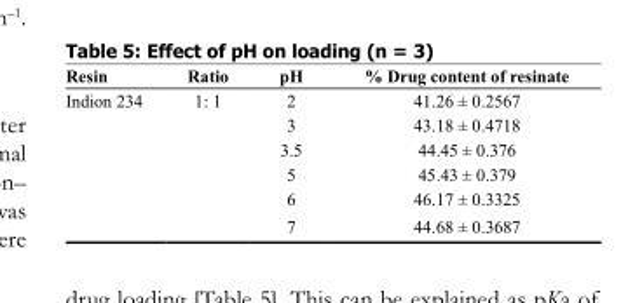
<table><thead><tr><td>Resin</td><td>Ratio</td><td>pH</td><td>% Drug content of resinate</td></tr></thead><tbody><tr><td rowspan="6">Indion 234</td><td>1: 1</td><td>2</td><td>41.26 ± 0.2567</td></tr><tr><td></td><td>3</td><td>43.18 ± 0.4718</td></tr><tr><td></td><td>3.5</td><td>44.45 ± 0.376</td></tr><tr><td></td><td>5</td><td>45.43 ± 0.379</td></tr><tr><td></td><td>6</td><td>46.17 ± 0.3325</td></tr><tr><td></td><td>7</td><td>44.68 ± 0.3687</td></tr></tbody></table>